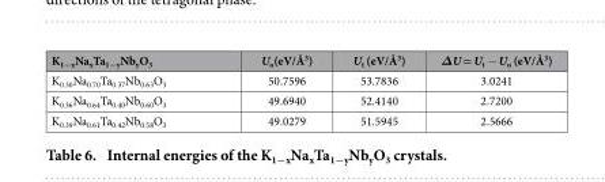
<table><thead><tr><td>K<sub>1−x</sub>Na<sub>x</sub>Ta<sub>1−y</sub>Nb<sub>y</sub>O<sub>3</sub></td><td>U<sub>o</sub>(eV/Å<sup>3</sup>)</td><td>U<sub>t</sub> (eV/Å<sup>3</sup>)</td><td>ΔU = U<sub>t</sub> − U<sub>o</sub> (eV/Å<sup>3</sup>)</td></tr></thead><tbody><tr><td>K<sub>0.30</sub>Na<sub>0.70</sub>Ta<sub>0.37</sub>Nb<sub>0.63</sub>O<sub>3</sub></td><td>50.7596</td><td>53.7836</td><td>3.0241</td></tr><tr><td>K<sub>0.36</sub>Na<sub>0.64</sub>Ta<sub>0.40</sub>Nb<sub>0.60</sub>O<sub>3</sub></td><td>49.6940</td><td>52.4140</td><td>2.7200</td></tr><tr><td>K<sub>0.39</sub>Na<sub>0.61</sub>Ta<sub>0.42</sub>Nb<sub>0.58</sub>O<sub>3</sub></td><td>49.0279</td><td>51.5945</td><td>2.5666</td></tr></tbody></table>